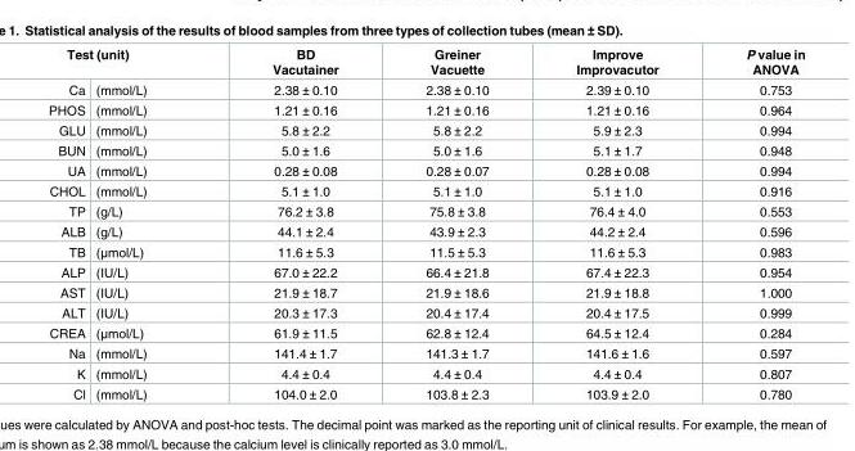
<table><thead><tr><td colspan="2">Test (unit)</td><td rowspan="2">BD Vacutainer 2.38 ± 0.10</td><td rowspan="2">Greiner Vacuette 2.38 ± 0.10</td><td rowspan="2">Improve Improvacutor 2.39 ± 0.10</td><td rowspan="2">P value in ANOVA 0.753</td></tr><tr><td>Ca</td><td>(mmol/L)</td></tr></thead><tbody><tr><td>PHOS</td><td>(mmol/L)</td><td>1.21 ± 0.16</td><td>1.21 ± 0.16</td><td>1.21 ± 0.16</td><td>0.964</td></tr><tr><td>GLU</td><td>(mmol/L)</td><td>5.8 ± 2.2</td><td>5.8 ± 2.2</td><td>5.9 ± 2.3</td><td>0.994</td></tr><tr><td>BUN</td><td>(mmol/L)</td><td>5.0 ± 1.6</td><td>5.0 ± 1.6</td><td>5.1 ± 1.7</td><td>0.948</td></tr><tr><td>UA</td><td>(mmol/L)</td><td>0.28 ± 0.08</td><td>0.28 ± 0.07</td><td>0.28 ± 0.08</td><td>0.994</td></tr><tr><td>CHOL</td><td>(mmol/L)</td><td>5.1 ± 1.0</td><td>5.1 ± 1.0</td><td>5.1 ± 1.0</td><td>0.916</td></tr><tr><td>TP</td><td>(g/L)</td><td>76.2 ± 3.8</td><td>75.8 ± 3.8</td><td>76.4 ± 4.0</td><td>0.553</td></tr><tr><td>ALB</td><td>(g/L)</td><td>44.1 ± 2.4</td><td>43.9 ± 2.3</td><td>44.2 ± 2.4</td><td>0.596</td></tr><tr><td>TB</td><td>(μmol/L)</td><td>11.6 ± 5.3</td><td>11.5 ± 5.3</td><td>11.6 ± 5.3</td><td>0.983</td></tr><tr><td>ALP</td><td>(IU/L)</td><td>67.0 ± 22.2</td><td>66.4 ± 21.8</td><td>67.4 ± 22.3</td><td>0.954</td></tr><tr><td>AST</td><td>(IU/L)</td><td>21.9 ± 18.7</td><td>21.9 ± 18.6</td><td>21.9 ± 18.8</td><td>1.000</td></tr><tr><td>ALT</td><td>(IU/L)</td><td>20.3 ± 17.3</td><td>20.4 ± 17.4</td><td>20.4 ± 17.5</td><td>0.999</td></tr><tr><td>CREA</td><td>(μmol/L)</td><td>61.9 ± 11.5</td><td>62.8 ± 12.4</td><td>64.5 ± 12.4</td><td>0.284</td></tr><tr><td>Na</td><td>(mmol/L)</td><td>141.4 ± 1.7</td><td>141.3 ± 1.7</td><td>141.6 ± 1.6</td><td>0.597</td></tr><tr><td>K</td><td>(mmol/L)</td><td>4.4 ± 0.4</td><td>4.4 ± 0.4</td><td>4.4 ± 0.4</td><td>0.807</td></tr><tr><td>Cl</td><td>(mmol/L)</td><td>104.0 ± 2.0</td><td>103.8 ± 2.3</td><td>103.9 ± 2.0</td><td>0.780</td></tr></tbody></table>